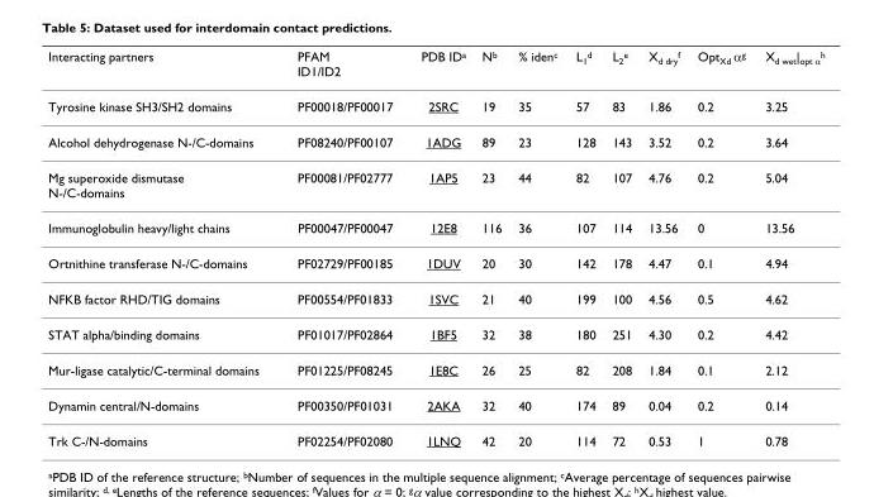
<table><thead><tr><td>Interacting partners</td><td>PFAM ID1/ID2</td><td>PDB ID<sup>a</sup></td><td>N<sup>b</sup></td><td>% iden<sup>c</sup></td><td>L<sub>1</sub><sup>d</sup></td><td>L<sub>2</sub><sup>e</sup></td><td>X<sub>d dry</sub><sup>f</sup></td><td>Opt<sub>Xd</sub> α<sup>g</sup></td><td>X<sub>d wet</sub>|<sub>opt α</sub><sup>h</sup></td></tr></thead><tbody><tr><td>Tyrosine kinase SH3/SH2 domains</td><td>PF00018/PF00017</td><td>2SRC</td><td>19</td><td>35</td><td>57</td><td>83</td><td>1.86</td><td>0.2</td><td>3.25</td></tr><tr><td>Alcohol dehydrogenase N-/C-domains</td><td>PF08240/PF00107</td><td>1ADG</td><td>89</td><td>23</td><td>128</td><td>143</td><td>3.52</td><td>0.2</td><td>3.64</td></tr><tr><td>Mg superoxide dismutase N-/C-domains</td><td>PF00081/PF02777</td><td>1AP5</td><td>23</td><td>44</td><td>82</td><td>107</td><td>4.76</td><td>0.2</td><td>5.04</td></tr><tr><td>Immunoglobulin heavy/light chains</td><td>PF00047/PF00047</td><td>12E8</td><td>116</td><td>36</td><td>107</td><td>114</td><td>13.56</td><td>0</td><td>13.56</td></tr><tr><td>Ortnithine transferase N-/C-domains</td><td>PF02729/PF00185</td><td>1DUV</td><td>20</td><td>30</td><td>142</td><td>178</td><td>4.47</td><td>0.1</td><td>4.94</td></tr><tr><td>NFKB factor RHD/TIG domains</td><td>PF00554/PF01833</td><td>1SVC</td><td>21</td><td>40</td><td>199</td><td>100</td><td>4.56</td><td>0.5</td><td>4.62</td></tr><tr><td>STAT alpha/binding domains</td><td>PF01017/PF02864</td><td>1BF5</td><td>32</td><td>38</td><td>180</td><td>251</td><td>4.30</td><td>0.2</td><td>4.42</td></tr><tr><td>Mur-ligase catalytic/C-terminal domains</td><td>PF01225/PF08245</td><td>1E8C</td><td>26</td><td>25</td><td>82</td><td>208</td><td>1.84</td><td>0.1</td><td>2.12</td></tr><tr><td>Dynamin central/N-domains</td><td>PF00350/PF01031</td><td>2AKA</td><td>32</td><td>40</td><td>174</td><td>89</td><td>0.04</td><td>0.2</td><td>0.14</td></tr><tr><td>Trk C-/N-domains</td><td>PF02254/PF02080</td><td>1LNQ</td><td>42</td><td>20</td><td>114</td><td>72</td><td>0.53</td><td>1</td><td>0.78</td></tr></tbody></table>